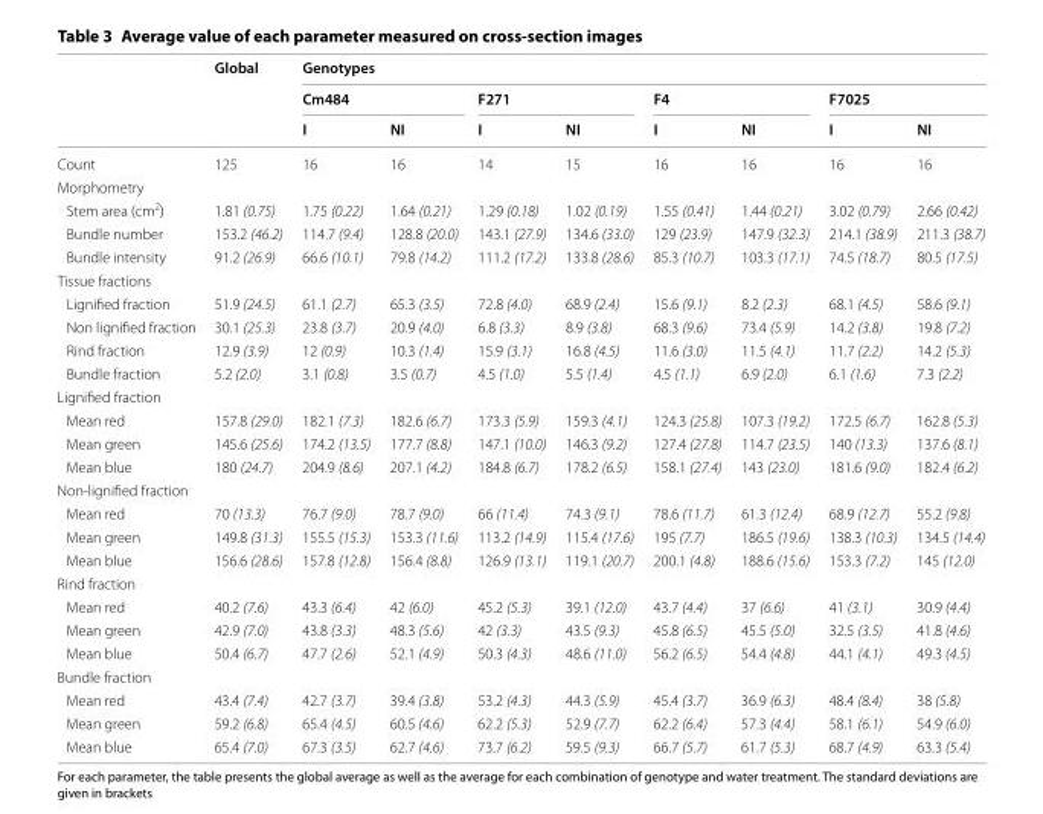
<table><thead><tr><td rowspan="3"></td><td rowspan="3">Global</td><td colspan="8">Genotypes</td></tr><tr><td colspan="2">Cm484</td><td colspan="2">F271</td><td colspan="2">F4</td><td colspan="2">F7025</td></tr><tr><td>I</td><td>NI</td><td>I</td><td>NI</td><td>I</td><td>NI</td><td>I</td><td>NI</td></tr></thead><tbody><tr><td>Count</td><td>125</td><td>16</td><td>16</td><td>14</td><td>15</td><td>16</td><td>16</td><td>16</td><td>16</td></tr><tr><td colspan="10">Morphometry</td></tr><tr><td>Stem area (cm<sup>2</sup>)</td><td>1.81 (0.75)</td><td>1.75 (0.22)</td><td>1.64 (0.21)</td><td>1.29 (0.18)</td><td>1.02 (0.19)</td><td>1.55 (0.41)</td><td>1.44 (0.21)</td><td>3.02 (0.79)</td><td>2.66 (0.42)</td></tr><tr><td>Bundle number</td><td>153.2 (46.2)</td><td>114.7 (9.4)</td><td>128.8 (20.0)</td><td>143.1 (27.9)</td><td>134.6 (33.0)</td><td>129 (23.9)</td><td>147.9 (32.3)</td><td>214.1 (38.9)</td><td>211.3 (38.7)</td></tr><tr><td>Bundle intensity</td><td>91.2 (26.9)</td><td>66.6 (10.1)</td><td>79.8 (14.2)</td><td>111.2 (17.2)</td><td>133.8 (28.6)</td><td>85.3 (10.7)</td><td>103.3 (17.1)</td><td>74.5 (18.7)</td><td>80.5 (17.5)</td></tr><tr><td colspan="10">Tissue fractions</td></tr><tr><td>Lignified fraction</td><td>51.9 (24.5)</td><td>61.1 (2.7)</td><td>65.3 (3.5)</td><td>72.8 (4.0)</td><td>68.9 (2.4)</td><td>15.6 (9.1)</td><td>8.2 (2.3)</td><td>68.1 (4.5)</td><td>58.6 (9.1)</td></tr><tr><td>Non lignified fraction</td><td>30.1 (25.3)</td><td>23.8 (3.7)</td><td>20.9 (4.0)</td><td>6.8 (3.3)</td><td>8.9 (3.8)</td><td>68.3 (9.6)</td><td>73.4 (5.9)</td><td>14.2 (3.8)</td><td>19.8 (7.2)</td></tr><tr><td>Rind fraction</td><td>12.9 (3.9)</td><td>12 (0.9)</td><td>10.3 (1.4)</td><td>15.9 (3.1)</td><td>16.8 (4.5)</td><td>11.6 (3.0)</td><td>11.5 (4.1)</td><td>11.7 (2.2)</td><td>14.2 (5.3)</td></tr><tr><td>Bundle fraction</td><td>5.2 (2.0)</td><td>3.1 (0.8)</td><td>3.5 (0.7)</td><td>4.5 (1.0)</td><td>5.5 (1.4)</td><td>4.5 (1.1)</td><td>6.9 (2.0)</td><td>6.1 (1.6)</td><td>7.3 (2.2)</td></tr><tr><td colspan="10">Lignified fraction</td></tr><tr><td>Mean red</td><td>157.8 (29.0)</td><td>182.1 (7.3)</td><td>182.6 (6.7)</td><td>173.3 (5.9)</td><td>159.3 (4.1)</td><td>124.3 (25.8)</td><td>107.3 (19.2)</td><td>172.5 (6.7)</td><td>162.8 (5.3)</td></tr><tr><td>Mean green</td><td>145.6 (25.6)</td><td>174.2 (13.5)</td><td>177.7 (8.8)</td><td>147.1 (10.0)</td><td>146.3 (9.2)</td><td>127.4 (27.8)</td><td>114.7 (23.5)</td><td>140 (13.3)</td><td>137.6 (8.1)</td></tr><tr><td>Mean blue</td><td>180 (24.7)</td><td>204.9 (8.6)</td><td>207.1 (4.2)</td><td>184.8 (6.7)</td><td>178.2 (6.5)</td><td>158.1 (27.4)</td><td>143 (23.0)</td><td>181.6 (9.0)</td><td>182.4 (6.2)</td></tr><tr><td colspan="10">Non‑lignified fraction</td></tr><tr><td>Mean red</td><td>70 (13.3)</td><td>76.7 (9.0)</td><td>78.7 (9.0)</td><td>66 (11.4)</td><td>74.3 (9.1)</td><td>78.6 (11.7)</td><td>61.3 (12.4)</td><td>68.9 (12.7)</td><td>55.2 (9.8)</td></tr><tr><td>Mean green</td><td>149.8 (31.3)</td><td>155.5 (15.3)</td><td>153.3 (11.6)</td><td>113.2 (14.9)</td><td>115.4 (17.6)</td><td>195 (7.7)</td><td>186.5 (19.6)</td><td>138.3 (10.3)</td><td>134.5 (14.4)</td></tr><tr><td>Mean blue</td><td>156.6 (28.6)</td><td>157.8 (12.8)</td><td>156.4 (8.8)</td><td>126.9 (13.1)</td><td>119.1 (20.7)</td><td>200.1 (4.8)</td><td>188.6 (15.6)</td><td>153.3 (7.2)</td><td>145 (12.0)</td></tr><tr><td colspan="10">Rind fraction</td></tr><tr><td>Mean red</td><td>40.2 (7.6)</td><td>43.3 (6.4)</td><td>42 (6.0)</td><td>45.2 (5.3)</td><td>39.1 (12.0)</td><td>43.7 (4.4)</td><td>37 (6.6)</td><td>41 (3.1)</td><td>30.9 (4.4)</td></tr><tr><td>Mean green</td><td>42.9 (7.0)</td><td>43.8 (3.3)</td><td>48.3 (5.6)</td><td>42 (3.3)</td><td>43.5 (9.3)</td><td>45.8 (6.5)</td><td>45.5 (5.0)</td><td>32.5 (3.5)</td><td>41.8 (4.6)</td></tr><tr><td>Mean blue</td><td>50.4 (6.7)</td><td>47.7 (2.6)</td><td>52.1 (4.9)</td><td>50.3 (4.3)</td><td>48.6 (11.0)</td><td>56.2 (6.5)</td><td>54.4 (4.8)</td><td>44.1 (4.1)</td><td>49.3 (4.5)</td></tr><tr><td colspan="10">Bundle fraction</td></tr><tr><td>Mean red</td><td>43.4 (7.4)</td><td>42.7 (3.7)</td><td>39.4 (3.8)</td><td>53.2 (4.3)</td><td>44.3 (5.9)</td><td>45.4 (3.7)</td><td>36.9 (6.3)</td><td>48.4 (8.4)</td><td>38 (5.8)</td></tr><tr><td>Mean green</td><td>59.2 (6.8)</td><td>65.4 (4.5)</td><td>60.5 (4.6)</td><td>62.2 (5.3)</td><td>52.9 (7.7)</td><td>62.2 (6.4)</td><td>57.3 (4.4)</td><td>58.1 (6.1)</td><td>54.9 (6.0)</td></tr><tr><td>Mean blue</td><td>65.4 (7.0)</td><td>67.3 (3.5)</td><td>62.7 (4.6)</td><td>73.7 (6.2)</td><td>59.5 (9.3)</td><td>66.7 (5.7)</td><td>61.7 (5.3)</td><td>68.7 (4.9)</td><td>63.3 (5.4)</td></tr></tbody></table>